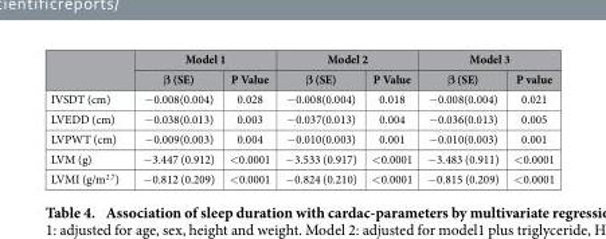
<table><thead><tr><td rowspan="2"></td><td colspan="2">Model 1</td><td colspan="2">Model 2</td><td colspan="2">Model 3</td></tr><tr><td>β (SE)</td><td>P Value</td><td>β (SE)</td><td>P Value</td><td>β (SE)</td><td>P value</td></tr></thead><tbody><tr><td>IVSDT (cm)</td><td>− 0.008(0.004)</td><td>0.028</td><td>− 0.008(0.004)</td><td>0.018</td><td>− 0.008(0.004)</td><td>0.021</td></tr><tr><td>LVEDD (cm)</td><td>− 0.038(0.013)</td><td>0.003</td><td>− 0.037(0.013)</td><td>0.004</td><td>− 0.036(0.013)</td><td>0.005</td></tr><tr><td>LVPWT (cm)</td><td>− 0.009(0.003)</td><td>0.004</td><td>− 0.010(0.003)</td><td>0.001</td><td>− 0.010(0.003)</td><td>0.001</td></tr><tr><td>LVM (g)</td><td>− 3.447 (0.912)</td><td>&lt; 0.0001</td><td>− 3.533 (0.917)</td><td>&lt; 0.0001</td><td>− 3.483 (0.911)</td><td>&lt; 0.0001</td></tr><tr><td>LVMI (g/m<sup>2.7</sup>)</td><td>− 0.812 (0.209)</td><td>&lt; 0.0001</td><td>− 0.824 (0.210)</td><td>&lt; 0.0001</td><td>− 0.815 (0.209)</td><td>&lt; 0.0001</td></tr></tbody></table>